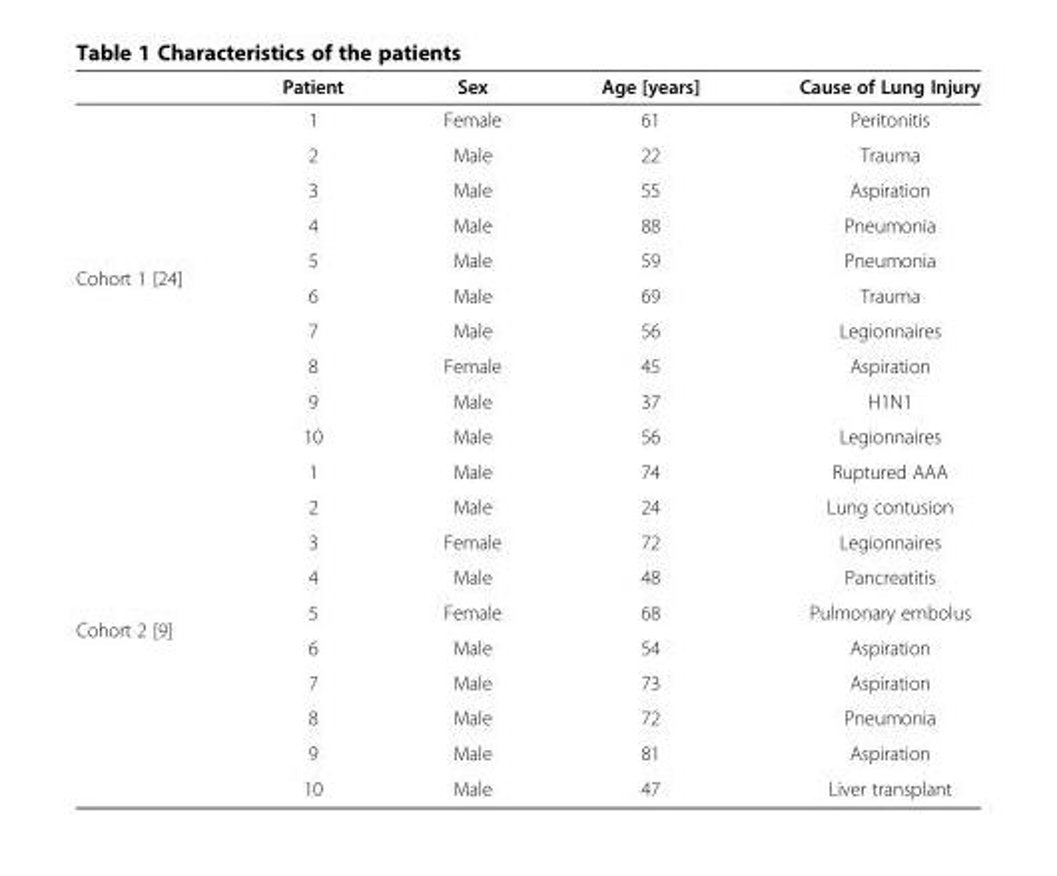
<table><thead><tr><td></td><td>Patient</td><td>Sex</td><td>Age [years]</td><td>Cause of Lung Injury</td></tr></thead><tbody><tr><td rowspan="10">Cohort 1 [24]</td><td>1</td><td>Female</td><td>61</td><td>Peritonitis</td></tr><tr><td>2</td><td>Male</td><td>22</td><td>Trauma</td></tr><tr><td>3</td><td>Male</td><td>55</td><td>Aspiration</td></tr><tr><td>4</td><td>Male</td><td>88</td><td>Pneumonia</td></tr><tr><td>5</td><td>Male</td><td>59</td><td>Pneumonia</td></tr><tr><td>6</td><td>Male</td><td>69</td><td>Trauma</td></tr><tr><td>7</td><td>Male</td><td>56</td><td>Legionnaires</td></tr><tr><td>8</td><td>Female</td><td>45</td><td>Aspiration</td></tr><tr><td>9</td><td>Male</td><td>37</td><td>H1N1</td></tr><tr><td>10</td><td>Male</td><td>56</td><td>Legionnaires</td></tr><tr><td rowspan="10">Cohort 2 [9]</td><td>1</td><td>Male</td><td>74</td><td>Ruptured AAA</td></tr><tr><td>2</td><td>Male</td><td>24</td><td>Lung contusion</td></tr><tr><td>3</td><td>Female</td><td>72</td><td>Legionnaires</td></tr><tr><td>4</td><td>Male</td><td>48</td><td>Pancreatitis</td></tr><tr><td>5</td><td>Female</td><td>68</td><td>Pulmonary embolus</td></tr><tr><td>6</td><td>Male</td><td>54</td><td>Aspiration</td></tr><tr><td>7</td><td>Male</td><td>73</td><td>Aspiration</td></tr><tr><td>8</td><td>Male</td><td>72</td><td>Pneumonia</td></tr><tr><td>9</td><td>Male</td><td>81</td><td>Aspiration</td></tr><tr><td>10</td><td>Male</td><td>47</td><td>Liver transplant</td></tr></tbody></table>